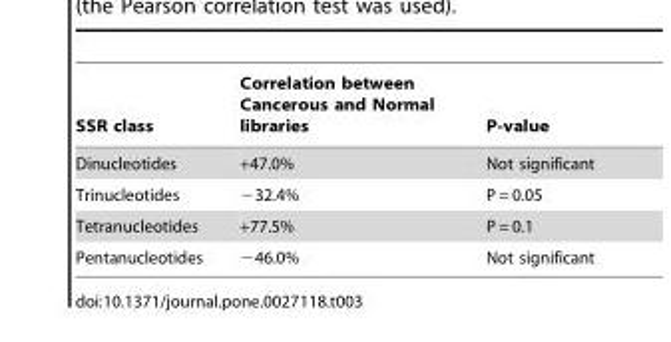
<table><thead><tr><td>SSR class</td><td>Correlation between Cancerous and Normal libraries</td><td>P-value</td></tr></thead><tbody><tr><td>Dinucleotides</td><td>+47.0%</td><td>Not significant</td></tr><tr><td>Trinucleotides</td><td>−32.4%</td><td>P = 0.05</td></tr><tr><td>Tetranucleotides</td><td>+77.5%</td><td>P = 0.1</td></tr><tr><td>Pentanucleotides</td><td>−46.0%</td><td>Not significant</td></tr></tbody></table>